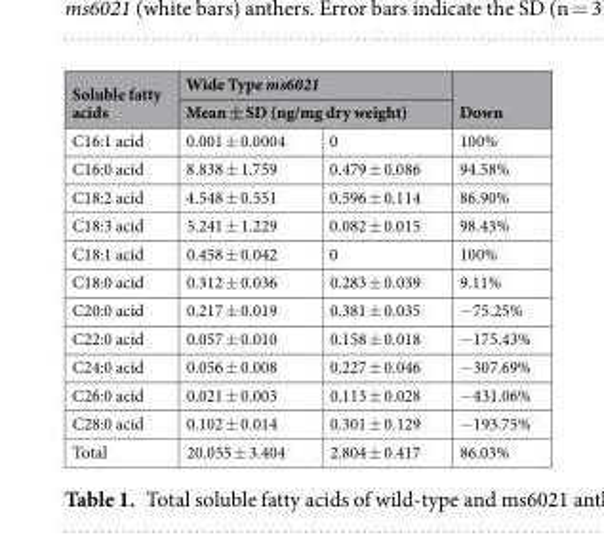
<table><thead><tr><td rowspan="3">Soluble fatty acids C16:1 acid</td><td rowspan="2" colspan="2">Wide Type ms6021 Mean ± SD (ng/mg dry weight)</td><td rowspan="3">Down 100%</td></tr><tr></tr><tr><td>0.001 ± 0.0004</td><td>0</td></tr></thead><tbody><tr><td>C16:0 acid</td><td>8.838 ± 1.759</td><td>0.479 ± 0.086</td><td>94.58%</td></tr><tr><td>C18:2 acid</td><td>4.548 ± 0.551</td><td>0.596 ± 0.114</td><td>86.90%</td></tr><tr><td>C18:3 acid</td><td>5.241 ± 1.229</td><td>0.082 ± 0.015</td><td>98.43%</td></tr><tr><td>C18:1 acid</td><td>0.458 ± 0.042</td><td>0</td><td>100%</td></tr><tr><td>C18:0 acid</td><td>0.312 ± 0.036</td><td>0.283 ± 0.039</td><td>9.11%</td></tr><tr><td>C20:0 acid</td><td>0.217 ± 0.019</td><td>0.381 ± 0.035</td><td>−75.25%</td></tr><tr><td>C22:0 acid</td><td>0.057 ± 0.010</td><td>0.158 ± 0.018</td><td>−175.43%</td></tr><tr><td>C24:0 acid</td><td>0.056 ± 0.008</td><td>0.227 ± 0.046</td><td>−307.69%</td></tr><tr><td>C26:0 acid</td><td>0.021 ± 0.003</td><td>0.113 ± 0.028</td><td>−431.06%</td></tr><tr><td>C28:0 acid</td><td>0.102 ± 0.014</td><td>0.301 ± 0.129</td><td>−193.75%</td></tr><tr><td>Total</td><td>20.055 ± 3.404</td><td>2.804 ± 0.417</td><td>86.03%</td></tr></tbody></table>